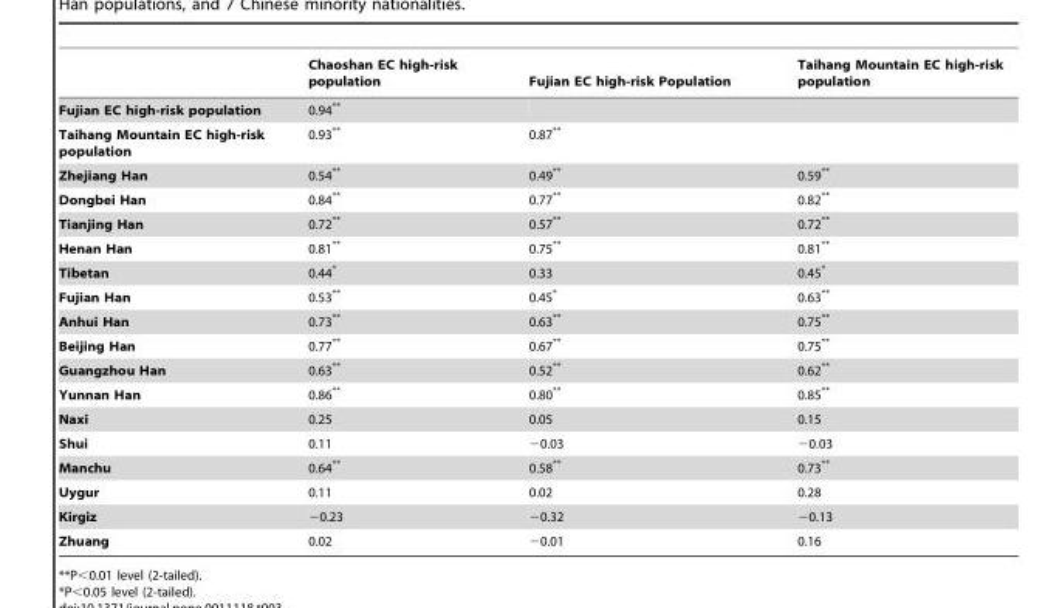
<table><thead><tr><td></td><td>Chaoshan EC high-risk population</td><td>Fujian EC high-risk Population</td><td>Taihang Mountain EC high-risk population</td></tr></thead><tbody><tr><td>Fujian EC high-risk population</td><td>0.94**</td><td></td><td></td></tr><tr><td>Taihang Mountain EC high-risk population</td><td>0.93**</td><td>0.87**</td><td></td></tr><tr><td>Zhejiang Han</td><td>0.54**</td><td>0.49**</td><td>0.59**</td></tr><tr><td>Dongbei Han</td><td>0.84**</td><td>0.77**</td><td>0.82**</td></tr><tr><td>Tianjing Han</td><td>0.72**</td><td>0.57**</td><td>0.72**</td></tr><tr><td>Henan Han</td><td>0.81**</td><td>0.75**</td><td>0.81**</td></tr><tr><td>Tibetan</td><td>0.44*</td><td>0.33</td><td>0.45*</td></tr><tr><td>Fujian Han</td><td>0.53**</td><td>0.45*</td><td>0.63**</td></tr><tr><td>Anhui Han</td><td>0.73**</td><td>0.63**</td><td>0.75**</td></tr><tr><td>Beijing Han</td><td>0.77**</td><td>0.67**</td><td>0.75**</td></tr><tr><td>Guangzhou Han</td><td>0.63**</td><td>0.52**</td><td>0.62**</td></tr><tr><td>Yunnan Han</td><td>0.86**</td><td>0.80**</td><td>0.85**</td></tr><tr><td>Naxi</td><td>0.25</td><td>0.05</td><td>0.15</td></tr><tr><td>Shui</td><td>0.11</td><td>−0.03</td><td>−0.03</td></tr><tr><td>Manchu</td><td>0.64**</td><td>0.58**</td><td>0.73**</td></tr><tr><td>Uygur</td><td>0.11</td><td>0.02</td><td>0.28</td></tr><tr><td>Kirgiz</td><td>−0.23</td><td>−0.32</td><td>−0.13</td></tr><tr><td>Zhuang</td><td>0.02</td><td>−0.01</td><td>0.16</td></tr></tbody></table>